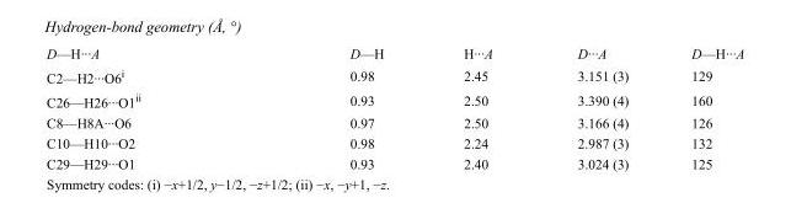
<table><tbody><tr><td>D—H···A</td><td>D—H</td><td>H···A</td><td>D···A</td><td>D—H···A</td></tr><tr><td>C2—H2···O6<sup>i</sup></td><td>0.98</td><td>2.45</td><td>3.151 (3)</td><td>129</td></tr><tr><td>C26—H26···O1<sup>ii</sup></td><td>0.93</td><td>2.50</td><td>3.390 (4)</td><td>160</td></tr><tr><td>C8—H8A···O6</td><td>0.97</td><td>2.50</td><td>3.166 (4)</td><td>126</td></tr><tr><td>C10—H10···O2</td><td>0.98</td><td>2.24</td><td>2.987 (3)</td><td>132</td></tr><tr><td>C29—H29···O1</td><td>0.93</td><td>2.40</td><td>3.024 (3)</td><td>125</td></tr></tbody></table>